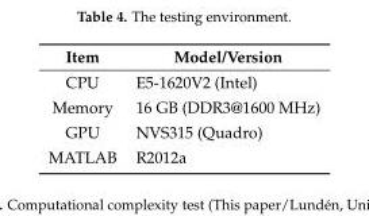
<table><thead><tr><td>Item</td><td>Model/Version</td></tr></thead><tbody><tr><td>CPU</td><td>E5-1620V2 (Intel)</td></tr><tr><td>Memory</td><td>16 GB (DDR3@1600 MHz)</td></tr><tr><td>GPU</td><td>NVS315 (Quadro)</td></tr><tr><td>MATLAB</td><td>R2012a</td></tr></tbody></table>